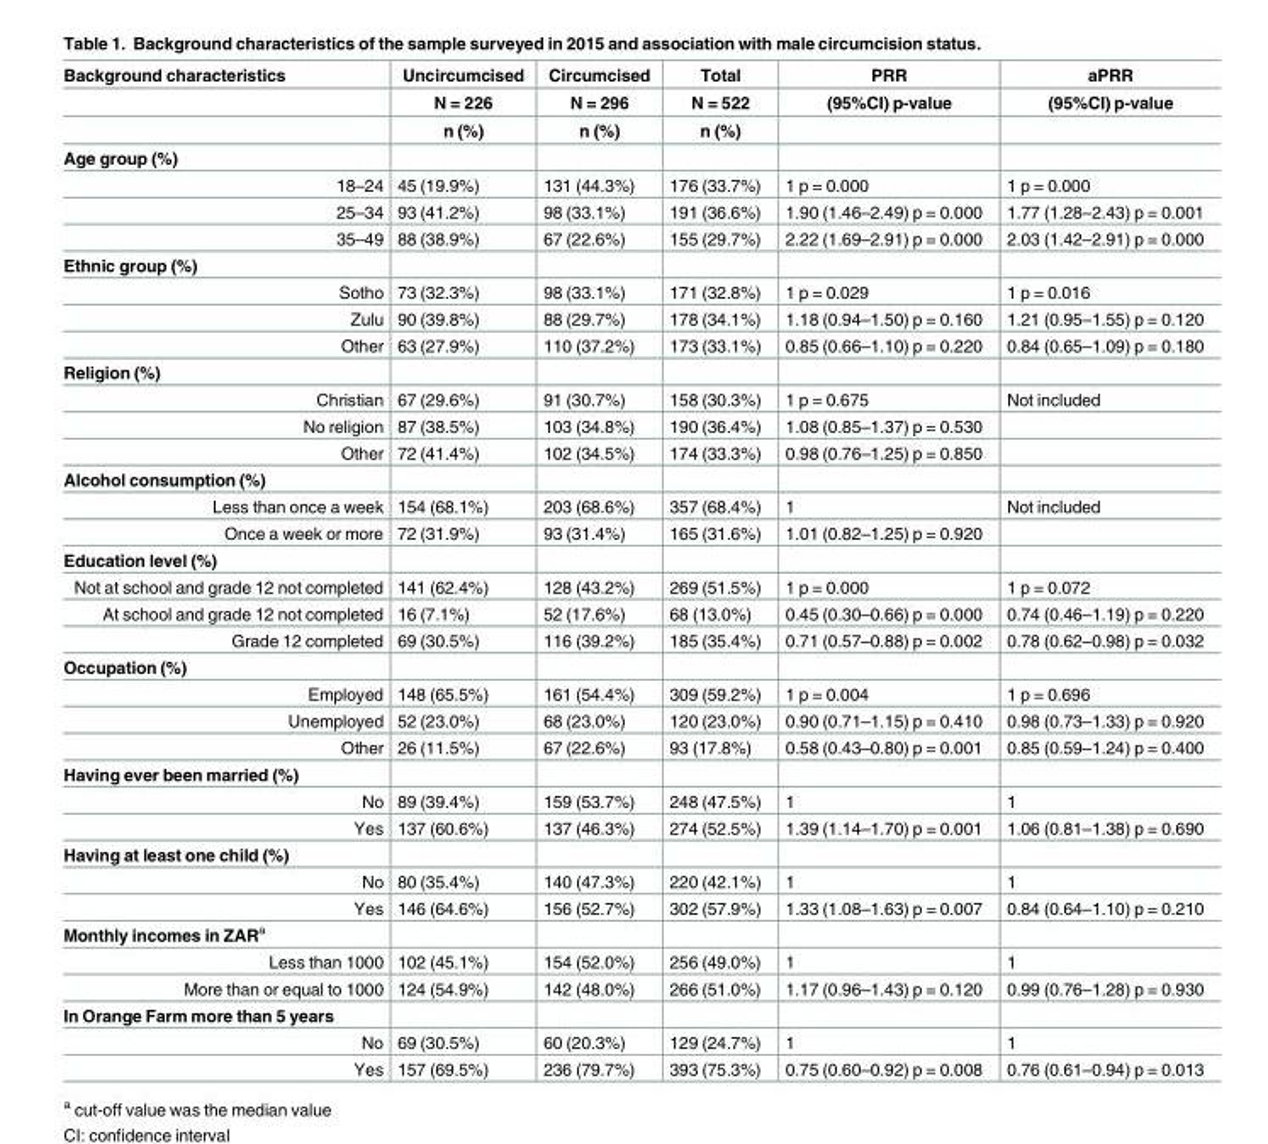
<table><thead><tr><td rowspan="3">Background characteristics</td><td rowspan="3">Uncircumcised N = 226 n (%)</td><td rowspan="3">Circumcised N = 296 n (%)</td><td rowspan="3">Total N = 522 n (%)</td><td rowspan="3">PRR (95%CI) p-value</td><td rowspan="3">aPRR (95%CI) p-value</td></tr><tr></tr><tr></tr></thead><tbody><tr><td colspan="6">Age group (%)</td></tr><tr><td>18–24</td><td>45 (19.9%)</td><td>131 (44.3%)</td><td>176 (33.7%)</td><td>1 p = 0.000</td><td>1 p = 0.000</td></tr><tr><td>25–34</td><td>93 (41.2%)</td><td>98 (33.1%)</td><td>191 (36.6%)</td><td>1.90 (1.46–2.49) p = 0.000</td><td>1.77 (1.28–2.43) p = 0.001</td></tr><tr><td>35–49</td><td>88 (38.9%)</td><td>67 (22.6%)</td><td>155 (29.7%)</td><td>2.22 (1.69–2.91) p = 0.000</td><td>2.03 (1.42–2.91) p = 0.000</td></tr><tr><td colspan="6">Ethnic group (%)</td></tr><tr><td>Sotho</td><td>73 (32.3%)</td><td>98 (33.1%)</td><td>171 (32.8%)</td><td>1 p = 0.029</td><td>1 p = 0.016</td></tr><tr><td>Zulu</td><td>90 (39.8%)</td><td>88 (29.7%)</td><td>178 (34.1%)</td><td>1.18 (0.94–1.50) p = 0.160</td><td>1.21 (0.95–1.55) p = 0.120</td></tr><tr><td>Other</td><td>63 (27.9%)</td><td>110 (37.2%)</td><td>173 (33.1%)</td><td>0.85 (0.66–1.10) p = 0.220</td><td>0.84 (0.65–1.09) p = 0.180</td></tr><tr><td colspan="6">Religion (%)</td></tr><tr><td>Christian</td><td>67 (29.6%)</td><td>91 (30.7%)</td><td>158 (30.3%)</td><td>1 p = 0.675</td><td>Not included</td></tr><tr><td>No religion</td><td>87 (38.5%)</td><td>103 (34.8%)</td><td>190 (36.4%)</td><td>1.08 (0.85–1.37) p = 0.530</td><td></td></tr><tr><td>Other</td><td>72 (41.4%)</td><td>102 (34.5%)</td><td>174 (33.3%)</td><td>0.98 (0.76–1.25) p = 0.850</td><td></td></tr><tr><td colspan="6">Alcohol consumption (%)</td></tr><tr><td>Less than once a week</td><td>154 (68.1%)</td><td>203 (68.6%)</td><td>357 (68.4%)</td><td>1</td><td>Not included</td></tr><tr><td>Once a week or more</td><td>72 (31.9%)</td><td>93 (31.4%)</td><td>165 (31.6%)</td><td>1.01 (0.82–1.25) p = 0.920</td><td></td></tr><tr><td colspan="6">Education level (%)</td></tr><tr><td>Not at school and grade 12 not completed</td><td>141 (62.4%)</td><td>128 (43.2%)</td><td>269 (51.5%)</td><td>1 p = 0.000</td><td>1 p = 0.072</td></tr><tr><td>At school and grade 12 not completed</td><td>16 (7.1%)</td><td>52 (17.6%)</td><td>68 (13.0%)</td><td>0.45 (0.30–0.66) p = 0.000</td><td>0.74 (0.46–1.19) p = 0.220</td></tr><tr><td>Grade 12 completed</td><td>69 (30.5%)</td><td>116 (39.2%)</td><td>185 (35.4%)</td><td>0.71 (0.57–0.88) p = 0.002</td><td>0.78 (0.62–0.98) p = 0.032</td></tr><tr><td colspan="6">Occupation (%)</td></tr><tr><td>Employed</td><td>148 (65.5%)</td><td>161 (54.4%)</td><td>309 (59.2%)</td><td>1 p = 0.004</td><td>1 p = 0.696</td></tr><tr><td>Unemployed</td><td>52 (23.0%)</td><td>68 (23.0%)</td><td>120 (23.0%)</td><td>0.90 (0.71–1.15) p = 0.410</td><td>0.98 (0.73–1.33) p = 0.920</td></tr><tr><td>Other</td><td>26 (11.5%)</td><td>67 (22.6%)</td><td>93 (17.8%)</td><td>0.58 (0.43–0.80) p = 0.001</td><td>0.85 (0.59–1.24) p = 0.400</td></tr><tr><td colspan="6">Having ever been married (%)</td></tr><tr><td>No</td><td>89 (39.4%)</td><td>159 (53.7%)</td><td>248 (47.5%)</td><td>1</td><td>1</td></tr><tr><td>Yes</td><td>137 (60.6%)</td><td>137 (46.3%)</td><td>274 (52.5%)</td><td>1.39 (1.14–1.70) p = 0.001</td><td>1.06 (0.81–1.38) p = 0.690</td></tr><tr><td colspan="6">Having at least one child (%)</td></tr><tr><td>No</td><td>80 (35.4%)</td><td>140 (47.3%)</td><td>220 (42.1%)</td><td>1</td><td>1</td></tr><tr><td>Yes</td><td>146 (64.6%)</td><td>156 (52.7%)</td><td>302 (57.9%)</td><td>1.33 (1.08–1.63) p = 0.007</td><td>0.84 (0.64–1.10) p = 0.210</td></tr><tr><td colspan="6">Monthly incomes in ZAR<sup>a</sup></td></tr><tr><td>Less than 1000</td><td>102 (45.1%)</td><td>154 (52.0%)</td><td>256 (49.0%)</td><td>1</td><td>1</td></tr><tr><td>More than or equal to 1000</td><td>124 (54.9%)</td><td>142 (48.0%)</td><td>266 (51.0%)</td><td>1.17 (0.96–1.43) p = 0.120</td><td>0.99 (0.76–1.28) p = 0.930</td></tr><tr><td colspan="6">In Orange Farm more than 5 years</td></tr><tr><td>No</td><td>69 (30.5%)</td><td>60 (20.3%)</td><td>129 (24.7%)</td><td>1</td><td>1</td></tr><tr><td>Yes</td><td>157 (69.5%)</td><td>236 (79.7%)</td><td>393 (75.3%)</td><td>0.75 (0.60–0.92) p = 0.008</td><td>0.76 (0.61–0.94) p = 0.013</td></tr></tbody></table>